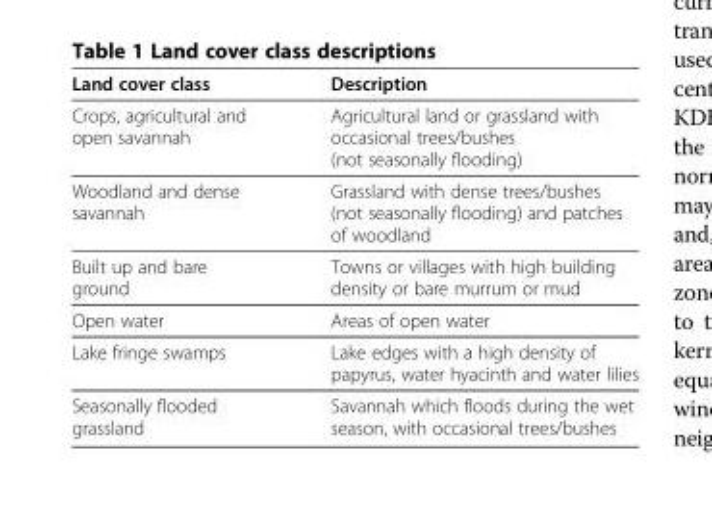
<table><thead><tr><td>Land cover class</td><td>Description</td></tr></thead><tbody><tr><td>Crops, agricultural and open savannah</td><td>Agricultural land or grassland with occasional trees/bushes (not seasonally flooding)</td></tr><tr><td>Woodland and dense savannah</td><td>Grassland with dense trees/bushes (not seasonally flooding) and patches of woodland</td></tr><tr><td>Built up and bare ground</td><td>Towns or villages with high building density or bare murrum or mud</td></tr><tr><td>Open water</td><td>Areas of open water</td></tr><tr><td>Lake fringe swamps</td><td>Lake edges with a high density of papyrus, water hyacinth and water lilies</td></tr><tr><td>Seasonally flooded grassland</td><td>Savannah which floods during the wet season, with occasional trees/bushes</td></tr></tbody></table>